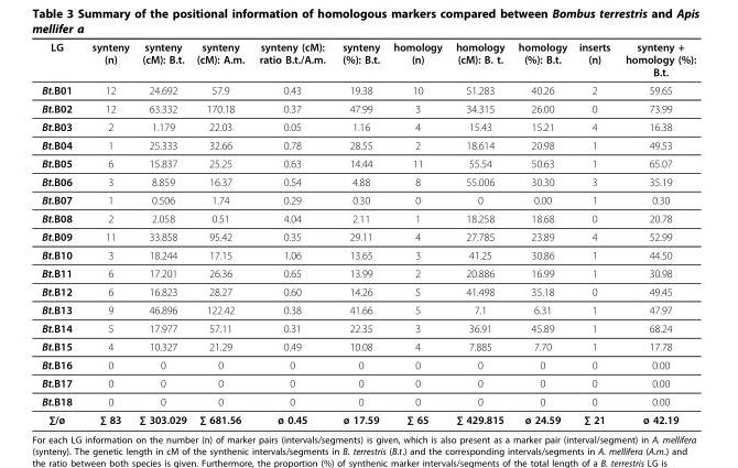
<table><thead><tr><td>LG</td><td>synteny (n)</td><td>synteny (cM): B.t.</td><td>synteny (cM): A.m.</td><td>synteny (cM): ratio B.t./A.m.</td><td>synteny (%): B.t.</td><td>homology (n)</td><td>homology (cM): B. t.</td><td>homology (%): B.t.</td><td>inserts (n)</td><td>synteny + homology (%): B.t.</td></tr></thead><tbody><tr><td>Bt.B01</td><td>12</td><td>24.692</td><td>57.9</td><td>0.43</td><td>19.38</td><td>10</td><td>51.283</td><td>40.26</td><td>2</td><td>59.65</td></tr><tr><td>Bt.B02</td><td>12</td><td>63.332</td><td>170.18</td><td>0.37</td><td>47.99</td><td>3</td><td>34.315</td><td>26.00</td><td>0</td><td>73.99</td></tr><tr><td>Bt.B03</td><td>2</td><td>1.179</td><td>22.03</td><td>0.05</td><td>1.16</td><td>4</td><td>15.43</td><td>15.21</td><td>4</td><td>16.38</td></tr><tr><td>Bt.B04</td><td>1</td><td>25.333</td><td>32.66</td><td>0.78</td><td>28.55</td><td>2</td><td>18.614</td><td>20.98</td><td>1</td><td>49.53</td></tr><tr><td>Bt.B05</td><td>6</td><td>15.837</td><td>25.25</td><td>0.63</td><td>14.44</td><td>11</td><td>55.54</td><td>50.63</td><td>1</td><td>65.07</td></tr><tr><td>Bt.B06</td><td>3</td><td>8.859</td><td>16.37</td><td>0.54</td><td>4.88</td><td>8</td><td>55.006</td><td>30.30</td><td>3</td><td>35.19</td></tr><tr><td>Bt.B07</td><td>1</td><td>0.506</td><td>1.74</td><td>0.29</td><td>0.30</td><td>0</td><td>0</td><td>0.00</td><td>1</td><td>0.30</td></tr><tr><td>Bt.B08</td><td>2</td><td>2.058</td><td>0.51</td><td>4.04</td><td>2.11</td><td>1</td><td>18.258</td><td>18.68</td><td>0</td><td>20.78</td></tr><tr><td>Bt.B09</td><td>11</td><td>33.858</td><td>95.42</td><td>0.35</td><td>29.11</td><td>4</td><td>27.785</td><td>23.89</td><td>4</td><td>52.99</td></tr><tr><td>Bt.B10</td><td>3</td><td>18.244</td><td>17.15</td><td>1.06</td><td>13.65</td><td>3</td><td>41.25</td><td>30.86</td><td>1</td><td>44.50</td></tr><tr><td>Bt.B11</td><td>6</td><td>17.201</td><td>26.36</td><td>0.65</td><td>13.99</td><td>2</td><td>20.886</td><td>16.99</td><td>1</td><td>30.98</td></tr><tr><td>Bt.B12</td><td>6</td><td>16.823</td><td>28.27</td><td>0.60</td><td>14.26</td><td>5</td><td>41.498</td><td>35.18</td><td>0</td><td>49.45</td></tr><tr><td>Bt.B13</td><td>9</td><td>46.896</td><td>122.42</td><td>0.38</td><td>41.66</td><td>5</td><td>7.1</td><td>6.31</td><td>1</td><td>47.97</td></tr><tr><td>Bt.B14</td><td>5</td><td>17.977</td><td>57.11</td><td>0.31</td><td>22.35</td><td>3</td><td>36.91</td><td>45.89</td><td>1</td><td>68.24</td></tr><tr><td>Bt.B15</td><td>4</td><td>10.327</td><td>21.29</td><td>0.49</td><td>10.08</td><td>4</td><td>7.885</td><td>7.70</td><td>1</td><td>17.78</td></tr><tr><td>Bt.B16</td><td>0</td><td>0</td><td>0</td><td>0</td><td>0</td><td>0</td><td>0</td><td>0</td><td>0</td><td>0.00</td></tr><tr><td>Bt.B17</td><td>0</td><td>0</td><td>0</td><td>0</td><td>0</td><td>0</td><td>0</td><td>0</td><td>0</td><td>0.00</td></tr><tr><td>Bt.B18</td><td>0</td><td>0</td><td>0</td><td>0</td><td>0</td><td>0</td><td>0</td><td>0</td><td>0</td><td>0.00</td></tr><tr><td>∑/ø</td><td>∑ 83</td><td>∑ 303.029</td><td>∑ 681.56</td><td>ø 0.45</td><td>ø 17.59</td><td>∑ 65</td><td>∑ 429.815</td><td>ø 24.59</td><td>∑ 21</td><td>ø 42.19</td></tr></tbody></table>